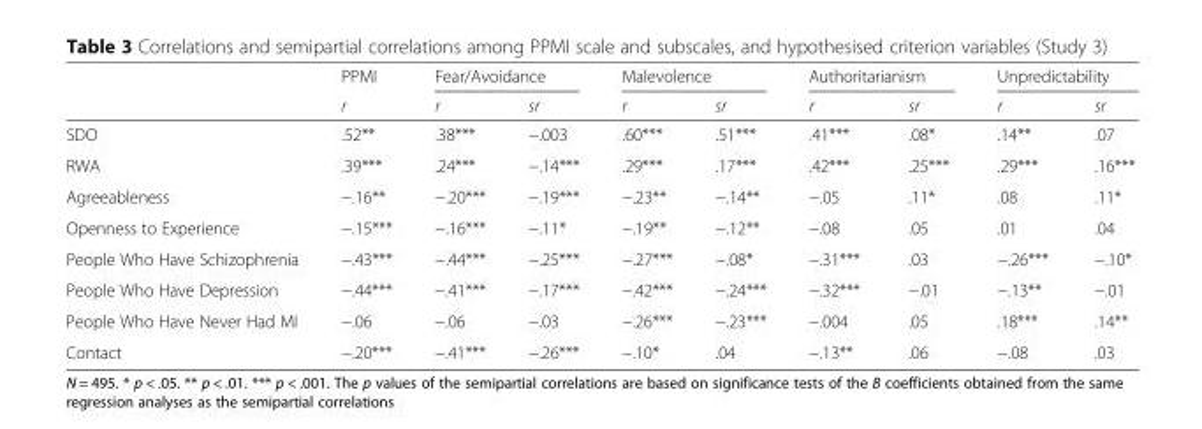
<table><thead><tr><td rowspan="2"></td><td rowspan="2">PPMI r</td><td colspan="2">Fear/Avoidance</td><td colspan="2">Malevolence</td><td colspan="2">Authoritarianism</td><td colspan="2">Unpredictability</td></tr><tr><td>r</td><td>sr</td><td>r</td><td>sr</td><td>r</td><td>sr</td><td>r</td><td>sr</td></tr></thead><tbody><tr><td>SDO</td><td>.52**</td><td>.38***</td><td>−.003</td><td>.60***</td><td>.51***</td><td>.41***</td><td>.08*</td><td>.14**</td><td>.07</td></tr><tr><td>RWA</td><td>.39***</td><td>.24***</td><td>−.14***</td><td>.29***</td><td>.17***</td><td>.42***</td><td>.25***</td><td>.29***</td><td>.16***</td></tr><tr><td>Agreeableness</td><td>−.16**</td><td>−.20***</td><td>−.19***</td><td>−.23**</td><td>−.14**</td><td>−.05</td><td>.11*</td><td>.08</td><td>.11*</td></tr><tr><td>Openness to Experience</td><td>−.15***</td><td>−.16***</td><td>−.11*</td><td>−.19**</td><td>−.12**</td><td>−.08</td><td>.05</td><td>.01</td><td>.04</td></tr><tr><td>People Who Have Schizophrenia</td><td>−.43***</td><td>−.44***</td><td>−.25***</td><td>−.27***</td><td>−.08*</td><td>−.31***</td><td>.03</td><td>−.26***</td><td>−.10*</td></tr><tr><td>People Who Have Depression</td><td>−.44***</td><td>−.41***</td><td>−.17***</td><td>−.42***</td><td>−.24***</td><td>−.32***</td><td>−.01</td><td>−.13**</td><td>−.01</td></tr><tr><td>People Who Have Never Had MI</td><td>−.06</td><td>−.06</td><td>−.03</td><td>−.26***</td><td>−.23***</td><td>−.004</td><td>.05</td><td>.18***</td><td>.14**</td></tr><tr><td>Contact</td><td>−.20***</td><td>−.41***</td><td>−.26***</td><td>−.10*</td><td>.04</td><td>−.13**</td><td>.06</td><td>−.08</td><td>.03</td></tr></tbody></table>